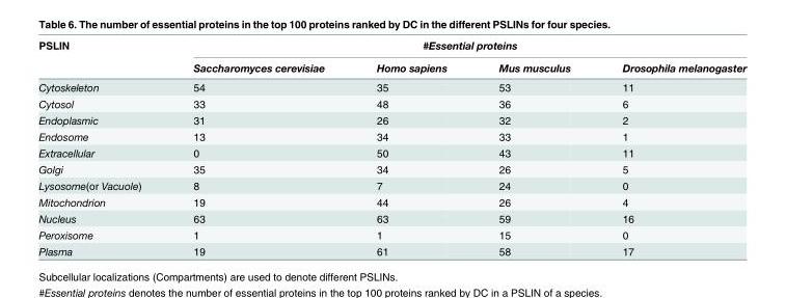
<table><thead><tr><td rowspan="2">PSLIN</td><td colspan="4">#Essential proteins</td></tr><tr><td>Saccharomyces cerevisiae</td><td>Homo sapiens</td><td>Mus musculus</td><td>Drosophila melanogaster</td></tr></thead><tbody><tr><td>Cytoskeleton</td><td>54</td><td>35</td><td>53</td><td>11</td></tr><tr><td>Cytosol</td><td>33</td><td>48</td><td>36</td><td>6</td></tr><tr><td>Endoplasmic</td><td>31</td><td>26</td><td>32</td><td>2</td></tr><tr><td>Endosome</td><td>13</td><td>34</td><td>33</td><td>1</td></tr><tr><td>Extracellular</td><td>0</td><td>50</td><td>43</td><td>11</td></tr><tr><td>Golgi</td><td>35</td><td>34</td><td>26</td><td>5</td></tr><tr><td>Lysosome(or Vacuole)</td><td>8</td><td>7</td><td>24</td><td>0</td></tr><tr><td>Mitochondrion</td><td>19</td><td>44</td><td>26</td><td>4</td></tr><tr><td>Nucleus</td><td>63</td><td>63</td><td>59</td><td>16</td></tr><tr><td>Peroxisome</td><td>1</td><td>1</td><td>15</td><td>0</td></tr><tr><td>Plasma</td><td>19</td><td>61</td><td>58</td><td>17</td></tr></tbody></table>